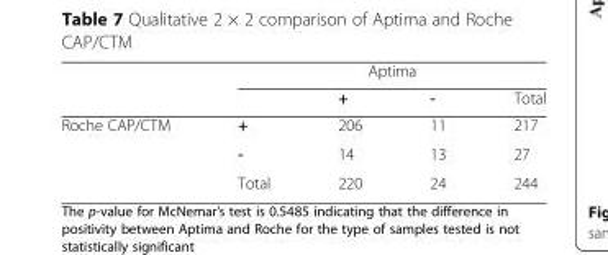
<table><thead><tr><td rowspan="2"></td><td colspan="4">Aptima</td></tr><tr><td></td><td>+</td><td>-</td><td>Total</td></tr></thead><tbody><tr><td rowspan="3">Roche CAP/CTM</td><td>+</td><td>206</td><td>11</td><td>217</td></tr><tr><td>-</td><td>14</td><td>13</td><td>27</td></tr><tr><td>Total</td><td>220</td><td>24</td><td>244</td></tr></tbody></table>